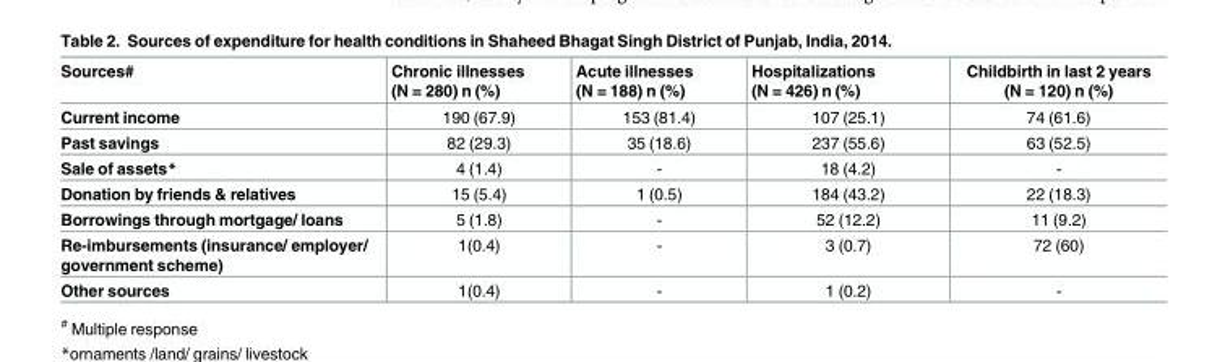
<table><thead><tr><td>Sources#</td><td>Chronic illnesses (N = 280) n (%)</td><td>Acute illnesses (N = 188) n (%)</td><td>Hospitalizations (N = 426) n (%)</td><td>Childbirth in last 2 years (N = 120) n (%)</td></tr></thead><tbody><tr><td>Current income</td><td>190 (67.9)</td><td>153 (81.4)</td><td>107 (25.1)</td><td>74 (61.6)</td></tr><tr><td>Past savings</td><td>82 (29.3)</td><td>35 (18.6)</td><td>237 (55.6)</td><td>63 (52.5)</td></tr><tr><td>Sale of assets*</td><td>4 (1.4)</td><td>-</td><td>18 (4.2)</td><td>-</td></tr><tr><td>Donation by friends &amp; relatives</td><td>15 (5.4)</td><td>1 (0.5)</td><td>184 (43.2)</td><td>22 (18.3)</td></tr><tr><td>Borrowings through mortgage/ loans</td><td>5 (1.8)</td><td>-</td><td>52 (12.2)</td><td>11 (9.2)</td></tr><tr><td>Re-imbursements (insurance/ employer/ government scheme)</td><td>1(0.4)</td><td>-</td><td>3 (0.7)</td><td>72 (60)</td></tr><tr><td>Other sources</td><td>1(0.4)</td><td>-</td><td>1 (0.2)</td><td>-</td></tr></tbody></table>